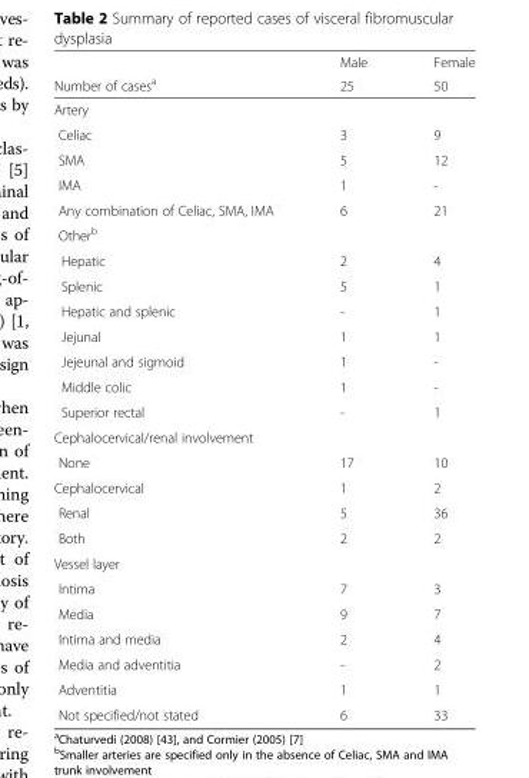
<table><thead><tr><td rowspan="2">Number of cases<sup>a</sup></td><td rowspan="2">Male 25</td><td rowspan="2">Female 50</td></tr><tr></tr></thead><tbody><tr><td colspan="3">Artery</td></tr><tr><td>Celiac</td><td>3</td><td>9</td></tr><tr><td>SMA</td><td>5</td><td>12</td></tr><tr><td>IMA</td><td>1</td><td>-</td></tr><tr><td>Any combination of Celiac, SMA, IMA</td><td>6</td><td>21</td></tr><tr><td colspan="3">Other<sup>b</sup></td></tr><tr><td>Hepatic</td><td>2</td><td>4</td></tr><tr><td>Splenic</td><td>5</td><td>1</td></tr><tr><td>Hepatic and splenic</td><td>-</td><td>1</td></tr><tr><td>Jejunal</td><td>1</td><td>1</td></tr><tr><td>Jejeunal and sigmoid</td><td>1</td><td>-</td></tr><tr><td>Middle colic</td><td>1</td><td>-</td></tr><tr><td>Superior rectal</td><td>-</td><td>1</td></tr><tr><td colspan="3">Cephalocervical/renal involvement</td></tr><tr><td>None</td><td>17</td><td>10</td></tr><tr><td>Cephalocervical</td><td>1</td><td>2</td></tr><tr><td>Renal</td><td>5</td><td>36</td></tr><tr><td>Both</td><td>2</td><td>2</td></tr><tr><td colspan="3">Vessel layer</td></tr><tr><td>Intima</td><td>7</td><td>3</td></tr><tr><td>Media</td><td>9</td><td>7</td></tr><tr><td>Intima and media</td><td>2</td><td>4</td></tr><tr><td>Media and adventitia</td><td>-</td><td>2</td></tr><tr><td>Adventitia</td><td>1</td><td>1</td></tr><tr><td>Not specified/not stated</td><td>6</td><td>33</td></tr></tbody></table>